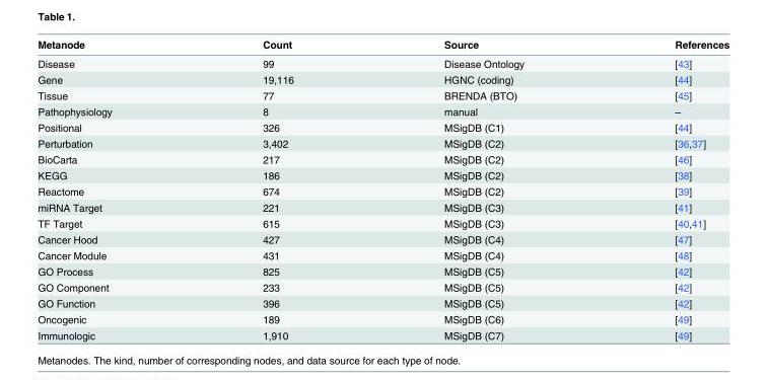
<table><thead><tr><td>Metanode</td><td>Count</td><td>Source</td><td>References</td></tr></thead><tbody><tr><td>Disease</td><td>99</td><td>Disease Ontology</td><td>[43]</td></tr><tr><td>Gene</td><td>19,116</td><td>HGNC (coding)</td><td>[44]</td></tr><tr><td>Tissue</td><td>77</td><td>BRENDA (BTO)</td><td>[45]</td></tr><tr><td>Pathophysiology</td><td>8</td><td>manual</td><td>–</td></tr><tr><td>Positional</td><td>326</td><td>MSigDB (C1)</td><td>[44]</td></tr><tr><td>Perturbation</td><td>3,402</td><td>MSigDB (C2)</td><td>[36,37]</td></tr><tr><td>BioCarta</td><td>217</td><td>MSigDB (C2)</td><td>[46]</td></tr><tr><td>KEGG</td><td>186</td><td>MSigDB (C2)</td><td>[38]</td></tr><tr><td>Reactome</td><td>674</td><td>MSigDB (C2)</td><td>[39]</td></tr><tr><td>miRNA Target</td><td>221</td><td>MSigDB (C3)</td><td>[41]</td></tr><tr><td>TF Target</td><td>615</td><td>MSigDB (C3)</td><td>[40,41]</td></tr><tr><td>Cancer Hood</td><td>427</td><td>MSigDB (C4)</td><td>[47]</td></tr><tr><td>Cancer Module</td><td>431</td><td>MSigDB (C4)</td><td>[48]</td></tr><tr><td>GO Process</td><td>825</td><td>MSigDB (C5)</td><td>[42]</td></tr><tr><td>GO Component</td><td>233</td><td>MSigDB (C5)</td><td>[42]</td></tr><tr><td>GO Function</td><td>396</td><td>MSigDB (C5)</td><td>[42]</td></tr><tr><td>Oncogenic</td><td>189</td><td>MSigDB (C6)</td><td>[49]</td></tr><tr><td>Immunologic</td><td>1,910</td><td>MSigDB (C7)</td><td>[49]</td></tr></tbody></table>